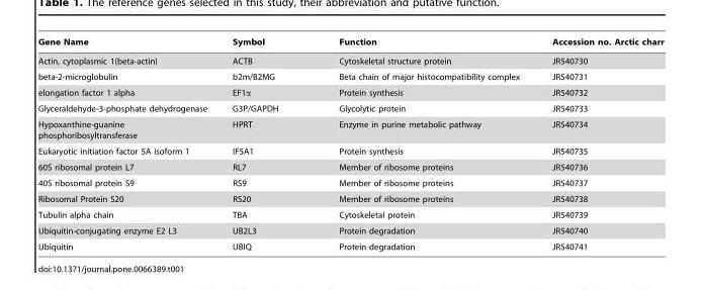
<table><thead><tr><td>Gene Name</td><td>Symbol</td><td>Function</td><td>Accession no. Arctic charr</td></tr></thead><tbody><tr><td>Actin, cytoplasmic 1(beta-actin)</td><td>ACTB</td><td>Cytoskeletal structure protein</td><td>JR540730</td></tr><tr><td>beta-2-microglobulin</td><td>b2m/B2MG</td><td>Beta chain of major histocompatibility complex</td><td>JR540731</td></tr><tr><td>elongation factor 1 alpha</td><td>EF1α</td><td>Protein synthesis</td><td>JR540732</td></tr><tr><td>Glyceraldehyde-3-phosphate dehydrogenase</td><td>G3P/GAPDH</td><td>Glycolytic protein</td><td>JR540733</td></tr><tr><td>Hypoxanthine-guanine phosphoribosyltransferase</td><td>HPRT</td><td>Enzyme in purine metabolic pathway</td><td>JR540734</td></tr><tr><td>Eukaryotic initiation factor 5A isoform 1</td><td>IF5A1</td><td>Protein synthesis</td><td>JR540735</td></tr><tr><td>60S ribosomal protein L7</td><td>RL7</td><td>Member of ribosome proteins</td><td>JR540736</td></tr><tr><td>40S ribosomal protein S9</td><td>RS9</td><td>Member of ribosome proteins</td><td>JR540737</td></tr><tr><td>Ribosomal Protein S20</td><td>RS20</td><td>Member of ribosome proteins</td><td>JR540738</td></tr><tr><td>Tubulin alpha chain</td><td>TBA</td><td>Cytoskeletal protein</td><td>JR540739</td></tr><tr><td>Ubiquitin-conjugating enzyme E2 L3</td><td>UB2L3</td><td>Protein degradation</td><td>JR540740</td></tr><tr><td>Ubiquitin</td><td>UBIQ</td><td>Protein degradation</td><td>JR540741</td></tr></tbody></table>